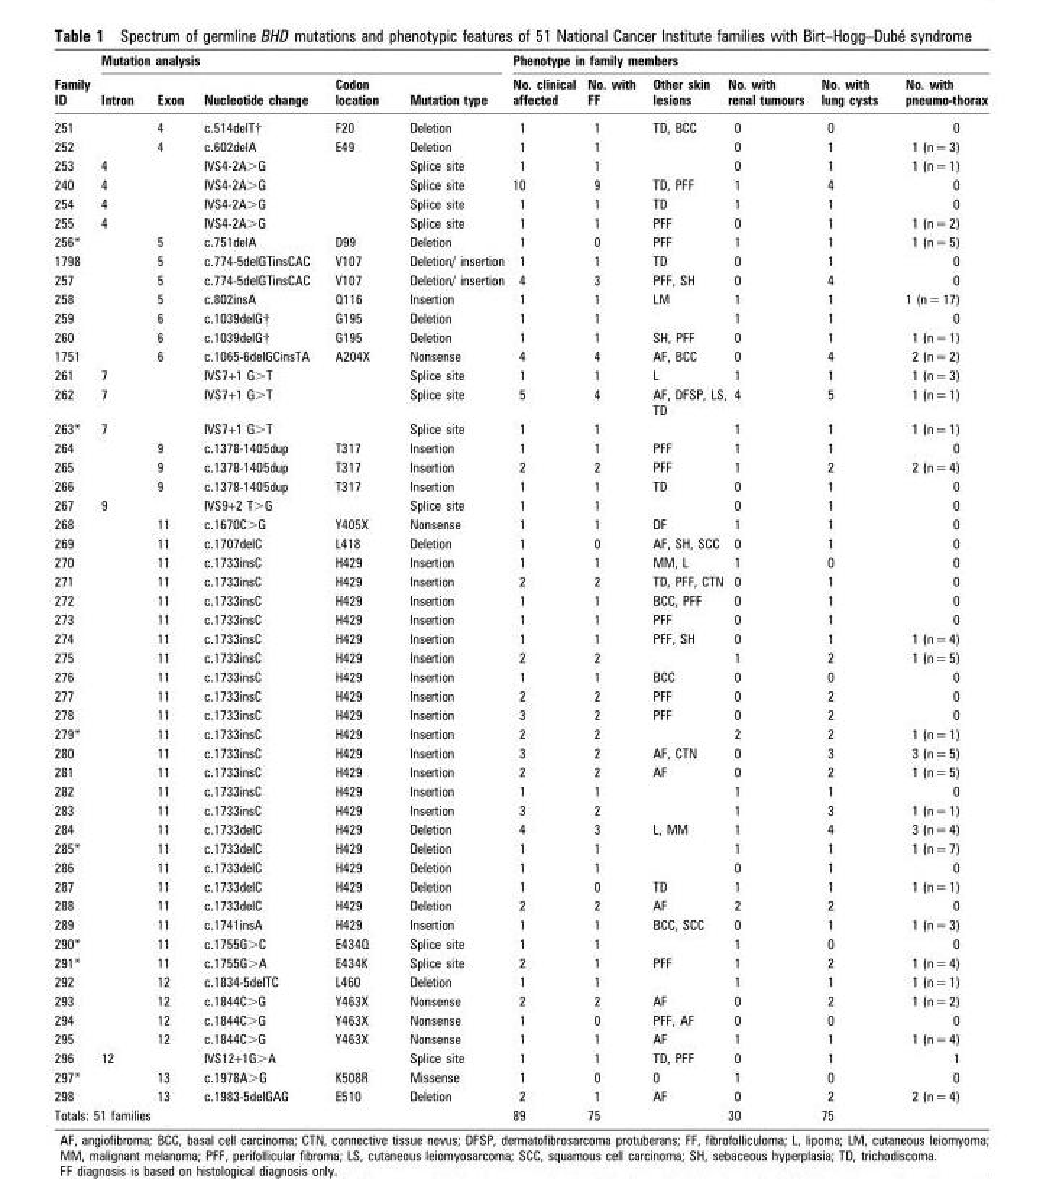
<table><thead><tr><td rowspan="2">Family ID</td><td colspan="5">Mutation analysis</td><td colspan="6">Phenotype in family members</td></tr><tr><td>Intron</td><td>Exon</td><td>Nucleotide change</td><td>Codon location</td><td>Mutation type</td><td>No. clinical affected</td><td>No. with FF</td><td>Other skin lesions</td><td>No. with renal tumours</td><td>No. with lung cysts</td><td>No. with pneumo-thorax</td></tr></thead><tbody><tr><td>251</td><td></td><td>4</td><td>c.514delT†</td><td>F20</td><td>Deletion</td><td>1</td><td>1</td><td>TD, BCC</td><td>0</td><td>0</td><td>0</td></tr><tr><td>252</td><td></td><td>4</td><td>c.602delA</td><td>E49</td><td>Deletion</td><td>1</td><td>1</td><td></td><td>0</td><td>1</td><td>1 (n = 3)</td></tr><tr><td>253</td><td>4</td><td></td><td>IVS4-2A&gt;G</td><td></td><td>Splice site</td><td>1</td><td>1</td><td></td><td>0</td><td>1</td><td>1 (n = 1)</td></tr><tr><td>240</td><td>4</td><td></td><td>IVS4-2A&gt;G</td><td></td><td>Splice site</td><td>10</td><td>9</td><td>TD, PFF</td><td>1</td><td>4</td><td>0</td></tr><tr><td>254</td><td>4</td><td></td><td>IVS4-2A&gt;G</td><td></td><td>Splice site</td><td>1</td><td>1</td><td>TD</td><td>1</td><td>1</td><td>0</td></tr><tr><td>255</td><td>4</td><td></td><td>IVS4-2A&gt;G</td><td></td><td>Splice site</td><td>1</td><td>1</td><td>PFF</td><td>0</td><td>1</td><td>1 (n = 2)</td></tr><tr><td>256*</td><td></td><td>5</td><td>c.751delA</td><td>D99</td><td>Deletion</td><td>1</td><td>0</td><td>PFF</td><td>1</td><td>1</td><td>1 (n = 5)</td></tr><tr><td>1798</td><td></td><td>5</td><td>c.774-5delGTinsCAC</td><td>V107</td><td>Deletion/ insertion</td><td>1</td><td>1</td><td>TD</td><td>0</td><td>1</td><td>0</td></tr><tr><td>257</td><td></td><td>5</td><td>c.774-5delGTinsCAC</td><td>V107</td><td>Deletion/ insertion</td><td>4</td><td>3</td><td>PFF, SH</td><td>0</td><td>4</td><td>0</td></tr><tr><td>258</td><td></td><td>5</td><td>c.802insA</td><td>Q116</td><td>Insertion</td><td>1</td><td>1</td><td>LM</td><td>1</td><td>1</td><td>1 (n = 17)</td></tr><tr><td>259</td><td></td><td>6</td><td>c.1039delG†</td><td>G195</td><td>Deletion</td><td>1</td><td>1</td><td></td><td>1</td><td>1</td><td>0</td></tr><tr><td>260</td><td></td><td>6</td><td>c.1039delG†</td><td>G195</td><td>Deletion</td><td>1</td><td>1</td><td>SH, PFF</td><td>0</td><td>1</td><td>1 (n = 1)</td></tr><tr><td>1751</td><td></td><td>6</td><td>c.1065-6delGCinsTA</td><td>A204X</td><td>Nonsense</td><td>4</td><td>4</td><td>AF, BCC</td><td>0</td><td>4</td><td>2 (n = 2)</td></tr><tr><td>261</td><td>7</td><td></td><td>IVS7+1 G&gt;T</td><td></td><td>Splice site</td><td>1</td><td>1</td><td>L</td><td>1</td><td>1</td><td>1 (n = 3)</td></tr><tr><td>262</td><td>7</td><td></td><td>IVS7+1 G&gt;T</td><td></td><td>Splice site</td><td>5</td><td>4</td><td>AF, DFSP, LS, TD</td><td>4</td><td>5</td><td>1 (n = 1)</td></tr><tr><td>263*</td><td>7</td><td></td><td>IVS7+1 G&gt;T</td><td></td><td>Splice site</td><td>1</td><td>1</td><td></td><td>1</td><td>1</td><td>1 (n = 1)</td></tr><tr><td>264</td><td></td><td>9</td><td>c.1378-1405dup</td><td>T317</td><td>Insertion</td><td>1</td><td>1</td><td>PFF</td><td>1</td><td>1</td><td>0</td></tr><tr><td>265</td><td></td><td>9</td><td>c.1378-1405dup</td><td>T317</td><td>Insertion</td><td>2</td><td>2</td><td>PFF</td><td>1</td><td>2</td><td>2 (n = 4)</td></tr><tr><td>266</td><td></td><td>9</td><td>c.1378-1405dup</td><td>T317</td><td>Insertion</td><td>1</td><td>1</td><td>TD</td><td>0</td><td>1</td><td>0</td></tr><tr><td>267</td><td>9</td><td></td><td>IVS9+2 T&gt;G</td><td></td><td>Splice site</td><td>1</td><td>1</td><td></td><td>0</td><td>1</td><td>0</td></tr><tr><td>268</td><td></td><td>11</td><td>c.1670C&gt;G</td><td>Y405X</td><td>Nonsense</td><td>1</td><td>1</td><td>DF</td><td>1</td><td>1</td><td>0</td></tr><tr><td>269</td><td></td><td>11</td><td>c.1707delC</td><td>L418</td><td>Deletion</td><td>1</td><td>0</td><td>AF, SH, SCC</td><td>0</td><td>1</td><td>0</td></tr><tr><td>270</td><td></td><td>11</td><td>c.1733insC</td><td>H429</td><td>Insertion</td><td>1</td><td>1</td><td>MM, L</td><td>1</td><td>0</td><td>0</td></tr><tr><td>271</td><td></td><td>11</td><td>c.1733insC</td><td>H429</td><td>Insertion</td><td>2</td><td>2</td><td>TD, PFF, CTN</td><td>0</td><td>1</td><td>0</td></tr><tr><td>272</td><td></td><td>11</td><td>c.1733insC</td><td>H429</td><td>Insertion</td><td>1</td><td>1</td><td>BCC, PFF</td><td>0</td><td>1</td><td>0</td></tr><tr><td>273</td><td></td><td>11</td><td>c.1733insC</td><td>H429</td><td>Insertion</td><td>1</td><td>1</td><td>PFF</td><td>0</td><td>1</td><td>0</td></tr><tr><td>274</td><td></td><td>11</td><td>c.1733insC</td><td>H429</td><td>Insertion</td><td>1</td><td>1</td><td>PFF, SH</td><td>0</td><td>1</td><td>1 (n = 4)</td></tr><tr><td>275</td><td></td><td>11</td><td>c.1733insC</td><td>H429</td><td>Insertion</td><td>2</td><td>2</td><td></td><td>1</td><td>2</td><td>1 (n = 5)</td></tr><tr><td>276</td><td></td><td>11</td><td>c.1733insC</td><td>H429</td><td>Insertion</td><td>1</td><td>1</td><td>BCC</td><td>0</td><td>0</td><td>0</td></tr><tr><td>277</td><td></td><td>11</td><td>c.1733insC</td><td>H429</td><td>Insertion</td><td>2</td><td>2</td><td>PFF</td><td>0</td><td>2</td><td>0</td></tr><tr><td>278</td><td></td><td>11</td><td>c.1733insC</td><td>H429</td><td>Insertion</td><td>3</td><td>2</td><td>PFF</td><td>0</td><td>2</td><td>0</td></tr><tr><td>279*</td><td></td><td>11</td><td>c.1733insC</td><td>H429</td><td>Insertion</td><td>2</td><td>2</td><td></td><td>2</td><td>2</td><td>1 (n = 1)</td></tr><tr><td>280</td><td></td><td>11</td><td>c.1733insC</td><td>H429</td><td>Insertion</td><td>3</td><td>2</td><td>AF, CTN</td><td>0</td><td>3</td><td>3 (n = 5)</td></tr><tr><td>281</td><td></td><td>11</td><td>c.1733insC</td><td>H429</td><td>Insertion</td><td>2</td><td>2</td><td>AF</td><td>0</td><td>2</td><td>1 (n = 5)</td></tr><tr><td>282</td><td></td><td>11</td><td>c.1733insC</td><td>H429</td><td>Insertion</td><td>1</td><td>1</td><td></td><td>1</td><td>1</td><td>0</td></tr><tr><td>283</td><td></td><td>11</td><td>c.1733insC</td><td>H429</td><td>Insertion</td><td>3</td><td>2</td><td></td><td>1</td><td>3</td><td>1 (n = 1)</td></tr><tr><td>284</td><td></td><td>11</td><td>c.1733delC</td><td>H429</td><td>Deletion</td><td>4</td><td>3</td><td>L, MM</td><td>1</td><td>4</td><td>3 (n = 4)</td></tr><tr><td>285*</td><td></td><td>11</td><td>c.1733delC</td><td>H429</td><td>Deletion</td><td>1</td><td>1</td><td></td><td>1</td><td>1</td><td>1 (n = 7)</td></tr><tr><td>286</td><td></td><td>11</td><td>c.1733delC</td><td>H429</td><td>Deletion</td><td>1</td><td>1</td><td></td><td>0</td><td>1</td><td>0</td></tr><tr><td>287</td><td></td><td>11</td><td>c.1733delC</td><td>H429</td><td>Deletion</td><td>1</td><td>0</td><td>TD</td><td>1</td><td>1</td><td>1 (n = 1)</td></tr><tr><td>288</td><td></td><td>11</td><td>c.1733delC</td><td>H429</td><td>Deletion</td><td>2</td><td>2</td><td>AF</td><td>2</td><td>2</td><td>0</td></tr><tr><td>289</td><td></td><td>11</td><td>c.1741insA</td><td>H429</td><td>Insertion</td><td>1</td><td>1</td><td>BCC, SCC</td><td>0</td><td>1</td><td>1 (n = 3)</td></tr><tr><td>290*</td><td></td><td>11</td><td>c.1755G&gt;C</td><td>E434Q</td><td>Splice site</td><td>1</td><td>1</td><td></td><td>1</td><td>0</td><td>0</td></tr><tr><td>291*</td><td></td><td>11</td><td>c.1755G&gt;A</td><td>E434K</td><td>Splice site</td><td>2</td><td>1</td><td>PFF</td><td>1</td><td>2</td><td>1 (n = 4)</td></tr><tr><td>292</td><td></td><td>12</td><td>c.1834-5delTC</td><td>L460</td><td>Deletion</td><td>1</td><td>1</td><td></td><td>1</td><td>1</td><td>1 (n = 1)</td></tr><tr><td>293</td><td></td><td>12</td><td>c.1844C&gt;G</td><td>Y463X</td><td>Nonsense</td><td>2</td><td>2</td><td>AF</td><td>0</td><td>2</td><td>1 (n = 2)</td></tr><tr><td>294</td><td></td><td>12</td><td>c.1844C&gt;G</td><td>Y463X</td><td>Nonsense</td><td>1</td><td>0</td><td>PFF, AF</td><td>0</td><td>0</td><td>0</td></tr><tr><td>295</td><td></td><td>12</td><td>c.1844C&gt;G</td><td>Y463X</td><td>Nonsense</td><td>1</td><td>1</td><td>AF</td><td>1</td><td>1</td><td>1 (n = 4)</td></tr><tr><td>296</td><td>12</td><td></td><td>IVS12+1G&gt;A</td><td></td><td>Splice site</td><td>1</td><td>1</td><td>TD, PFF</td><td>0</td><td>1</td><td>1</td></tr><tr><td>297*</td><td></td><td>13</td><td>c.1978A&gt;G</td><td>K508R</td><td>Missense</td><td>1</td><td>0</td><td>0</td><td>1</td><td>0</td><td>0</td></tr><tr><td>298</td><td></td><td>13</td><td>c.1983-5delGAG</td><td>E510</td><td>Deletion</td><td>2</td><td>1</td><td>AF</td><td>0</td><td>2</td><td>2 (n = 4)</td></tr><tr><td colspan="3">Totals: 51 families</td><td></td><td></td><td></td><td>89</td><td>75</td><td></td><td>30</td><td>75</td><td></td></tr></tbody></table>